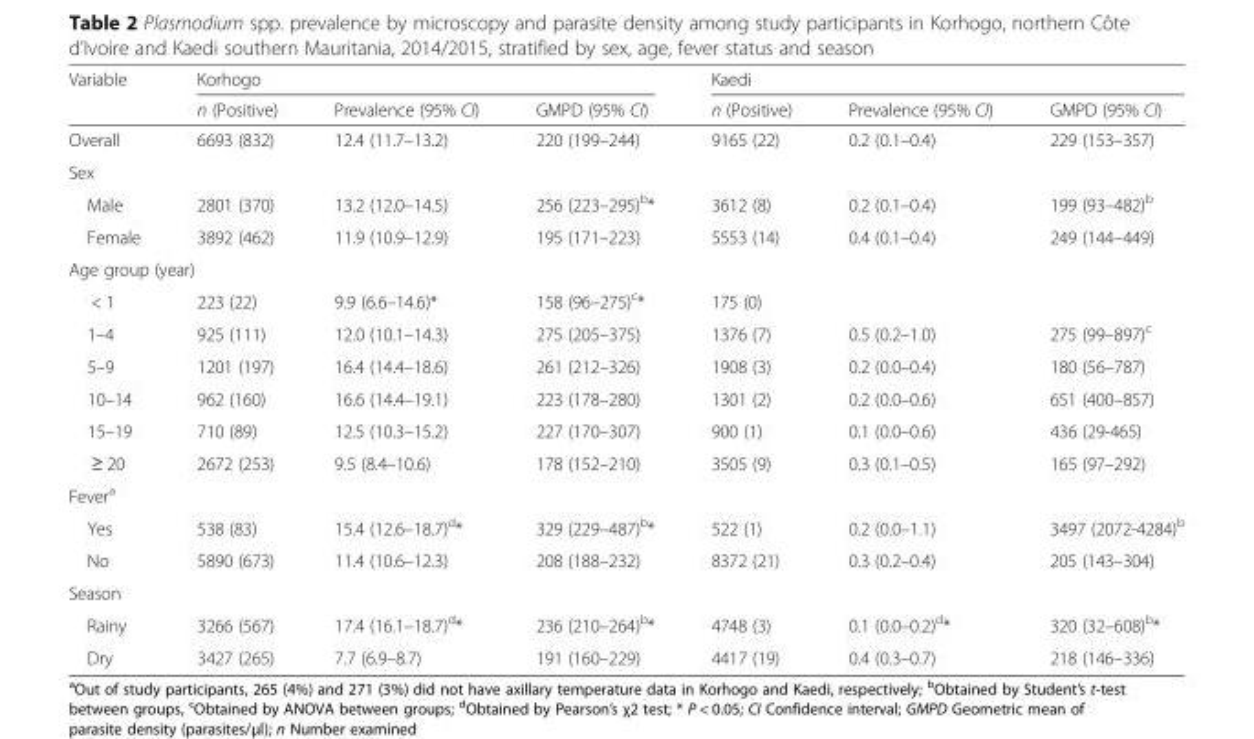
<table><thead><tr><td rowspan="2">Variable</td><td colspan="3">Korhogo</td><td colspan="3">Kaedi</td></tr><tr><td>n (Positive)</td><td>Prevalence (95% CI)</td><td>GMPD (95% CI)</td><td>n (Positive)</td><td>Prevalence (95% CI)</td><td>GMPD (95% CI)</td></tr></thead><tbody><tr><td>Overall</td><td>6693 (832)</td><td>12.4 (11.7–13.2)</td><td>220 (199–244)</td><td>9165 (22)</td><td>0.2 (0.1–0.4)</td><td>229 (153–357)</td></tr><tr><td colspan="7">Sex</td></tr><tr><td>Male</td><td>2801 (370)</td><td>13.2 (12.0–14.5)</td><td>256 (223–295)<sup>b</sup>*</td><td>3612 (8)</td><td>0.2 (0.1–0.4)</td><td>199 (93–482)<sup>b</sup></td></tr><tr><td>Female</td><td>3892 (462)</td><td>11.9 (10.9–12.9)</td><td>195 (171–223)</td><td>5553 (14)</td><td>0.4 (0.1–0.4)</td><td>249 (144–449)</td></tr><tr><td colspan="7">Age group (year)</td></tr><tr><td>&lt; 1</td><td>223 (22)</td><td>9.9 (6.6–14.6)*</td><td>158 (96–275)<sup>c</sup>*</td><td>175 (0)</td><td></td><td></td></tr><tr><td>1–4</td><td>925 (111)</td><td>12.0 (10.1–14.3)</td><td>275 (205–375)</td><td>1376 (7)</td><td>0.5 (0.2–1.0)</td><td>275 (99–897)<sup>c</sup></td></tr><tr><td>5–9</td><td>1201 (197)</td><td>16.4 (14.4–18.6)</td><td>261 (212–326)</td><td>1908 (3)</td><td>0.2 (0.0–0.4)</td><td>180 (56–787)</td></tr><tr><td>10–14</td><td>962 (160)</td><td>16.6 (14.4–19.1)</td><td>223 (178–280)</td><td>1301 (2)</td><td>0.2 (0.0–0.6)</td><td>651 (400–857)</td></tr><tr><td>15–19</td><td>710 (89)</td><td>12.5 (10.3–15.2)</td><td>227 (170–307)</td><td>900 (1)</td><td>0.1 (0.0–0.6)</td><td>436 (29-465)</td></tr><tr><td>≥ 20</td><td>2672 (253)</td><td>9.5 (8.4–10.6)</td><td>178 (152–210)</td><td>3505 (9)</td><td>0.3 (0.1–0.5)</td><td>165 (97–292)</td></tr><tr><td colspan="7">Fever<sup>a</sup></td></tr><tr><td>Yes</td><td>538 (83)</td><td>15.4 (12.6–18.7)<sup>d</sup>*</td><td>329 (229–487)<sup>b</sup>*</td><td>522 (1)</td><td>0.2 (0.0–1.1)</td><td>3497 (2072-4284)<sup>b</sup></td></tr><tr><td>No</td><td>5890 (673)</td><td>11.4 (10.6–12.3)</td><td>208 (188–232)</td><td>8372 (21)</td><td>0.3 (0.2–0.4)</td><td>205 (143–304)</td></tr><tr><td colspan="7">Season</td></tr><tr><td>Rainy</td><td>3266 (567)</td><td>17.4 (16.1–18.7)<sup>d</sup>*</td><td>236 (210–264)<sup>b</sup>*</td><td>4748 (3)</td><td>0.1 (0.0–0.2)<sup>d</sup>*</td><td>320 (32–608)<sup>b</sup>*</td></tr><tr><td>Dry</td><td>3427 (265)</td><td>7.7 (6.9–8.7)</td><td>191 (160–229)</td><td>4417 (19)</td><td>0.4 (0.3–0.7)</td><td>218 (146–336)</td></tr></tbody></table>